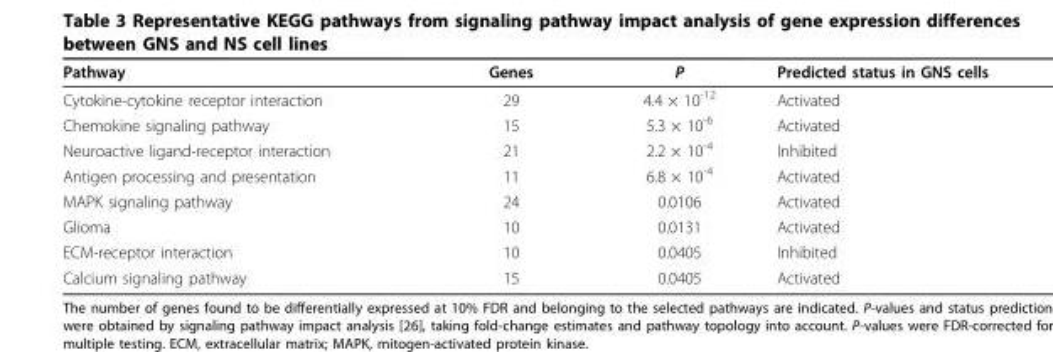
<table><thead><tr><td>Pathway</td><td>Genes</td><td>P</td><td>Predicted status in GNS cells</td></tr></thead><tbody><tr><td>Cytokine-cytokine receptor interaction</td><td>29</td><td>4.4 × 10<sup>-12</sup></td><td>Activated</td></tr><tr><td>Chemokine signaling pathway</td><td>15</td><td>5.3 × 10<sup>-6</sup></td><td>Activated</td></tr><tr><td>Neuroactive ligand-receptor interaction</td><td>21</td><td>2.2 × 10<sup>-4</sup></td><td>Inhibited</td></tr><tr><td>Antigen processing and presentation</td><td>11</td><td>6.8 × 10<sup>-4</sup></td><td>Activated</td></tr><tr><td>MAPK signaling pathway</td><td>24</td><td>0.0106</td><td>Activated</td></tr><tr><td>Glioma</td><td>10</td><td>0.0131</td><td>Activated</td></tr><tr><td>ECM-receptor interaction</td><td>10</td><td>0.0405</td><td>Inhibited</td></tr><tr><td>Calcium signaling pathway</td><td>15</td><td>0.0405</td><td>Activated</td></tr></tbody></table>